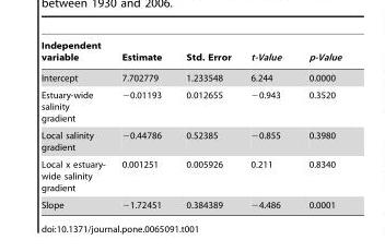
<table><thead><tr><td>Independent variable</td><td>Estimate</td><td>Std. Error</td><td>t-Value</td><td>p-Value</td></tr></thead><tbody><tr><td>Intercept</td><td>7.702779</td><td>1.233548</td><td>6.244</td><td>0.0000</td></tr><tr><td>Estuary-wide salinity gradient</td><td>−0.01193</td><td>0.012655</td><td>−0.943</td><td>0.3520</td></tr><tr><td>Local salinity gradient</td><td>−0.44786</td><td>0.52385</td><td>−0.855</td><td>0.3980</td></tr><tr><td>Local x estuary- wide salinity gradient</td><td>0.001251</td><td>0.005926</td><td>0.211</td><td>0.8340</td></tr><tr><td>Slope</td><td>−1.72451</td><td>0.384389</td><td>−4.486</td><td>0.0001</td></tr></tbody></table>